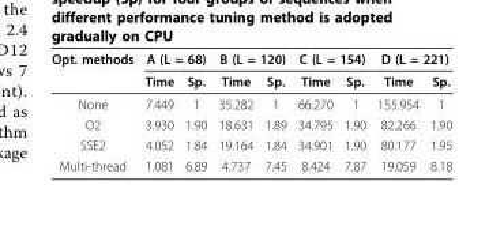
<table><thead><tr><td rowspan="2">Opt. methods</td><td colspan="2">A (L = 68)</td><td colspan="2">B (L = 120)</td><td colspan="2">C (L = 154)</td><td colspan="2">D (L = 221)</td></tr><tr><td>Time</td><td>Sp.</td><td>Time</td><td>Sp.</td><td>Time</td><td>Sp.</td><td>Time</td><td>Sp.</td></tr></thead><tbody><tr><td>None</td><td>7.449</td><td>1</td><td>35.282</td><td>1</td><td>66.270</td><td>1</td><td>155.954</td><td>1</td></tr><tr><td>O2</td><td>3.930</td><td>1.90</td><td>18.631</td><td>1.89</td><td>34.795</td><td>1.90</td><td>82.266</td><td>1.90</td></tr><tr><td>SSE2</td><td>4.052</td><td>1.84</td><td>19.164</td><td>1.84</td><td>34.901</td><td>1.90</td><td>80.177</td><td>1.95</td></tr><tr><td>Multi-thread</td><td>1.081</td><td>6.89</td><td>4.737</td><td>7.45</td><td>8.424</td><td>7.87</td><td>19.059</td><td>8.18</td></tr></tbody></table>